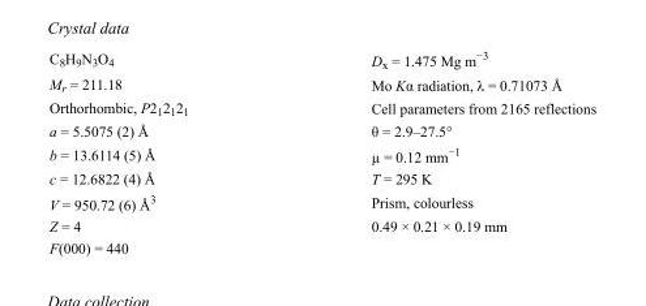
<table><tbody><tr><td>C<sub>8</sub>H<sub>9</sub>N<sub>3</sub>O<sub>4</sub></td><td>D<sub>x</sub> = 1.475 Mg m<sup>−3</sup></td></tr><tr><td>M<sub>r</sub> = 211.18</td><td>Mo Kα radiation, λ = 0.71073 Å</td></tr><tr><td>Orthorhombic, P2<sub>1</sub>2<sub>1</sub>2<sub>1</sub></td><td>Cell parameters from 2165 reflections</td></tr><tr><td>a = 5.5075 (2) Å</td><td>θ = 2.9–27.5°</td></tr><tr><td>b = 13.6114 (5) Å</td><td>µ = 0.12 mm<sup>−1</sup></td></tr><tr><td>c = 12.6822 (4) Å</td><td>T = 295 K</td></tr><tr><td>V = 950.72 (6) Å<sup>3</sup></td><td>Prism, colourless</td></tr><tr><td>Z = 4</td><td>0.49 × 0.21 × 0.19 mm</td></tr><tr><td>F(000) = 440</td><td></td></tr></tbody></table>